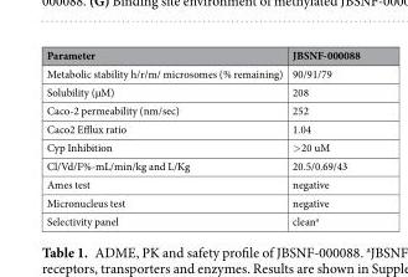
<table><thead><tr><td>Parameter</td><td>JBSNF-000088</td></tr></thead><tbody><tr><td>Metabolic stability h/r/m/ microsomes (% remaining)</td><td>90/91/79</td></tr><tr><td>Solubility (µM)</td><td>208</td></tr><tr><td>Caco-2 permeability (nm/sec)</td><td>252</td></tr><tr><td>Caco2 Efflux ratio</td><td>1.04</td></tr><tr><td>Cyp Inhibition</td><td>&gt;20 uM</td></tr><tr><td>Cl/Vd/F%-mL/min/kg and L/Kg</td><td>20.5/0.69/43</td></tr><tr><td>Ames test</td><td>negative</td></tr><tr><td>Micronucleus test</td><td>negative</td></tr><tr><td>Selectivity panel</td><td>clean<sup>a</sup></td></tr></tbody></table>